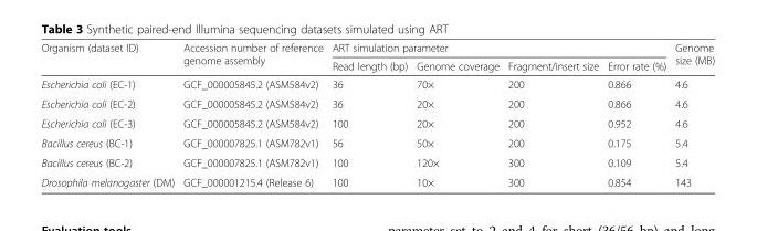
<table><thead><tr><td rowspan="2">Organism (dataset ID)</td><td rowspan="2">Accession number of reference genome assembly</td><td colspan="4">ART simulation parameter</td><td rowspan="2">Genome size (MB)</td></tr><tr><td>Read length (bp)</td><td>Genome coverage</td><td>Fragment/insert size</td><td>Error rate (%)</td></tr></thead><tbody><tr><td>Escherichia coli (EC-1)</td><td>GCF_000005845.2 (ASM584v2)</td><td>36</td><td>70×</td><td>200</td><td>0.866</td><td>4.6</td></tr><tr><td>Escherichia coli (EC-2)</td><td>GCF_000005845.2 (ASM584v2)</td><td>36</td><td>20×</td><td>200</td><td>0.866</td><td>4.6</td></tr><tr><td>Escherichia coli (EC-3)</td><td>GCF_000005845.2 (ASM584v2)</td><td>100</td><td>20×</td><td>200</td><td>0.952</td><td>4.6</td></tr><tr><td>Bacillus cereus (BC-1)</td><td>GCF_000007825.1 (ASM782v1)</td><td>56</td><td>50×</td><td>200</td><td>0.175</td><td>5.4</td></tr><tr><td>Bacillus cereus (BC-2)</td><td>GCF_000007825.1 (ASM782v1)</td><td>100</td><td>120×</td><td>300</td><td>0.109</td><td>5.4</td></tr><tr><td>Drosophila melanogaster (DM)</td><td>GCF_000001215.4 (Release 6)</td><td>100</td><td>10×</td><td>300</td><td>0.854</td><td>143</td></tr></tbody></table>